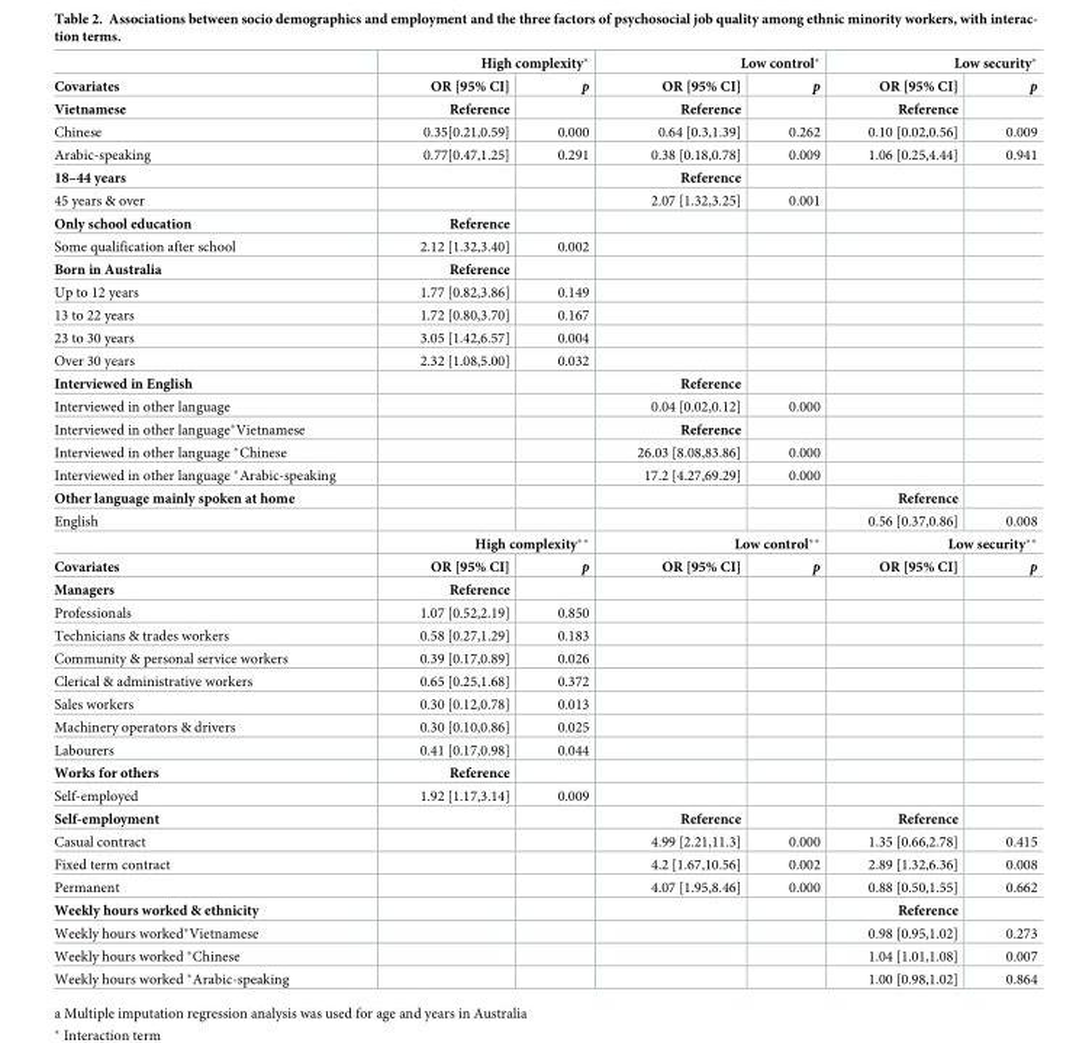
<table><thead><tr><td rowspan="2">Covariates</td><td colspan="2">High complexity*</td><td colspan="2">Low control*</td><td colspan="2">Low security*</td></tr><tr><td>OR [95% CI]</td><td>p</td><td>OR [95% CI]</td><td>p</td><td>OR [95% CI]</td><td>p</td></tr></thead><tbody><tr><td>Vietnamese</td><td>Reference</td><td></td><td>Reference</td><td></td><td>Reference</td><td></td></tr><tr><td>Chinese</td><td>0.35[0.21,0.59]</td><td>0.000</td><td>0.64 [0.3,1.39]</td><td>0.262</td><td>0.10 [0.02,0.56]</td><td>0.009</td></tr><tr><td>Arabic-speaking</td><td>0.77[0.47,1.25]</td><td>0.291</td><td>0.38 [0.18,0.78]</td><td>0.009</td><td>1.06 [0.25,4.44]</td><td>0.941</td></tr><tr><td>18–44 years</td><td></td><td></td><td>Reference</td><td></td><td></td><td></td></tr><tr><td>45 years &amp; over</td><td></td><td></td><td>2.07 [1.32,3.25]</td><td>0.001</td><td></td><td></td></tr><tr><td>Only school education</td><td>Reference</td><td></td><td></td><td></td><td></td><td></td></tr><tr><td>Some qualification after school</td><td>2.12 [1.32,3.40]</td><td>0.002</td><td></td><td></td><td></td><td></td></tr><tr><td>Born in Australia</td><td>Reference</td><td></td><td></td><td></td><td></td><td></td></tr><tr><td>Up to 12 years</td><td>1.77 [0.82,3.86]</td><td>0.149</td><td></td><td></td><td></td><td></td></tr><tr><td>13 to 22 years</td><td>1.72 [0.80,3.70]</td><td>0.167</td><td></td><td></td><td></td><td></td></tr><tr><td>23 to 30 years</td><td>3.05 [1.42,6.57]</td><td>0.004</td><td></td><td></td><td></td><td></td></tr><tr><td>Over 30 years</td><td>2.32 [1.08,5.00]</td><td>0.032</td><td></td><td></td><td></td><td></td></tr><tr><td>Interviewed in English</td><td></td><td></td><td>Reference</td><td></td><td></td><td></td></tr><tr><td>Interviewed in other language</td><td></td><td></td><td>0.04 [0.02,0.12]</td><td>0.000</td><td></td><td></td></tr><tr><td>Interviewed in other language*Vietnamese</td><td></td><td></td><td>Reference</td><td></td><td></td><td></td></tr><tr><td>Interviewed in other language *Chinese</td><td></td><td></td><td>26.03 [8.08,83.86]</td><td>0.000</td><td></td><td></td></tr><tr><td>Interviewed in other language *Arabic-speaking</td><td></td><td></td><td>17.2 [4.27,69.29]</td><td>0.000</td><td></td><td></td></tr><tr><td>Other language mainly spoken at home</td><td></td><td></td><td></td><td></td><td>Reference</td><td></td></tr><tr><td rowspan="2">English</td><td></td><td></td><td></td><td></td><td>0.56 [0.37,0.86]</td><td>0.008</td></tr><tr><td colspan="2">High complexity**</td><td colspan="2">Low control**</td><td colspan="2">Low security**</td></tr><tr><td>Covariates</td><td>OR [95% CI]</td><td>p</td><td>OR [95% CI]</td><td>p</td><td>OR [95% CI]</td><td>p</td></tr><tr><td>Managers</td><td>Reference</td><td></td><td></td><td></td><td></td><td></td></tr><tr><td>Professionals</td><td>1.07 [0.52,2.19]</td><td>0.850</td><td></td><td></td><td></td><td></td></tr><tr><td>Technicians &amp; trades workers</td><td>0.58 [0.27,1.29]</td><td>0.183</td><td></td><td></td><td></td><td></td></tr><tr><td>Community &amp; personal service workers</td><td>0.39 [0.17,0.89]</td><td>0.026</td><td></td><td></td><td></td><td></td></tr><tr><td>Clerical &amp; administrative workers</td><td>0.65 [0.25,1.68]</td><td>0.372</td><td></td><td></td><td></td><td></td></tr><tr><td>Sales workers</td><td>0.30 [0.12,0.78]</td><td>0.013</td><td></td><td></td><td></td><td></td></tr><tr><td>Machinery operators &amp; drivers</td><td>0.30 [0.10,0.86]</td><td>0.025</td><td></td><td></td><td></td><td></td></tr><tr><td>Labourers</td><td>0.41 [0.17,0.98]</td><td>0.044</td><td></td><td></td><td></td><td></td></tr><tr><td>Works for others</td><td>Reference</td><td></td><td></td><td></td><td></td><td></td></tr><tr><td>Self-employed</td><td>1.92 [1.17,3.14]</td><td>0.009</td><td></td><td></td><td></td><td></td></tr><tr><td>Self-employment</td><td></td><td></td><td>Reference</td><td></td><td>Reference</td><td></td></tr><tr><td>Casual contract</td><td></td><td></td><td>4.99 [2.21,11.3]</td><td>0.000</td><td>1.35 [0.66,2.78]</td><td>0.415</td></tr><tr><td>Fixed term contract</td><td></td><td></td><td>4.2 [1.67,10.56]</td><td>0.002</td><td>2.89 [1.32,6.36]</td><td>0.008</td></tr><tr><td>Permanent</td><td></td><td></td><td>4.07 [1.95,8.46]</td><td>0.000</td><td>0.88 [0.50,1.55]</td><td>0.662</td></tr><tr><td>Weekly hours worked &amp; ethnicity</td><td></td><td></td><td></td><td></td><td>Reference</td><td></td></tr><tr><td>Weekly hours worked*Vietnamese</td><td></td><td></td><td></td><td></td><td>0.98 [0.95,1.02]</td><td>0.273</td></tr><tr><td>Weekly hours worked *Chinese</td><td></td><td></td><td></td><td></td><td>1.04 [1.01,1.08]</td><td>0.007</td></tr><tr><td>Weekly hours worked *Arabic-speaking</td><td></td><td></td><td></td><td></td><td>1.00 [0.98,1.02]</td><td>0.864</td></tr></tbody></table>